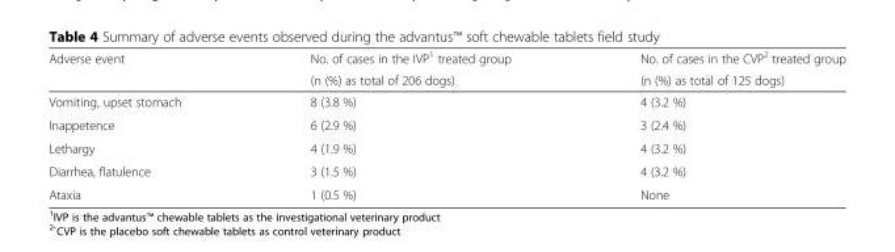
<table><thead><tr><td rowspan="2">Adverse event</td><td rowspan="2">No. of cases in the IVP<sup>1</sup> treated group (n (%) as total of 206 dogs)</td><td rowspan="2">No. of cases in the CVP<sup>2</sup> treated group (n (%) as total of 125 dogs)</td></tr><tr></tr></thead><tbody><tr><td>Vomiting, upset stomach</td><td>8 (3.8 %)</td><td>4 (3.2 %)</td></tr><tr><td>Inappetence</td><td>6 (2.9 %)</td><td>3 (2.4 %)</td></tr><tr><td>Lethargy</td><td>4 (1.9 %)</td><td>4 (3.2 %)</td></tr><tr><td>Diarrhea, flatulence</td><td>3 (1.5 %)</td><td>4 (3.2 %)</td></tr><tr><td>Ataxia</td><td>1 (0.5 %)</td><td>None</td></tr></tbody></table>